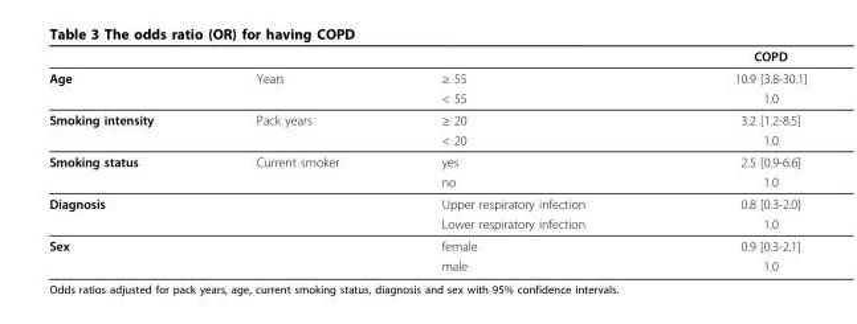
<table><thead><tr><td></td><td></td><td></td><td>COPD</td></tr></thead><tbody><tr><td rowspan="2">Age</td><td>Years</td><td>≥ 55</td><td>10.9 [3.8-30.1]</td></tr><tr><td></td><td>&lt; 55</td><td>1.0</td></tr><tr><td rowspan="2">Smoking intensity</td><td>Pack years</td><td>≥ 20</td><td>3.2 [1.2-8.5]</td></tr><tr><td></td><td>&lt; 20</td><td>1.0</td></tr><tr><td rowspan="2">Smoking status</td><td>Current smoker</td><td>yes</td><td>2.5 [0.9-6.6]</td></tr><tr><td></td><td>no</td><td>1.0</td></tr><tr><td rowspan="2">Diagnosis</td><td></td><td>Upper respiratory infection</td><td>0.8 [0.3-2.0]</td></tr><tr><td></td><td>Lower respiratory infection</td><td>1.0</td></tr><tr><td rowspan="2">Sex</td><td></td><td>female</td><td>0.9 [0.3-2.1]</td></tr><tr><td></td><td>male</td><td>1.0</td></tr></tbody></table>